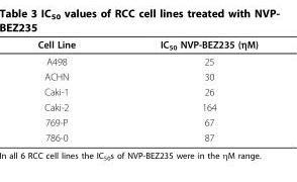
<table><thead><tr><td>Cell Line</td><td>IC<sub>50</sub> NVP-BEZ235 (ηM)</td></tr></thead><tbody><tr><td>A498</td><td>25</td></tr><tr><td>ACHN</td><td>30</td></tr><tr><td>Caki-1</td><td>26</td></tr><tr><td>Caki-2</td><td>164</td></tr><tr><td>769-P</td><td>67</td></tr><tr><td>786-0</td><td>87</td></tr></tbody></table>